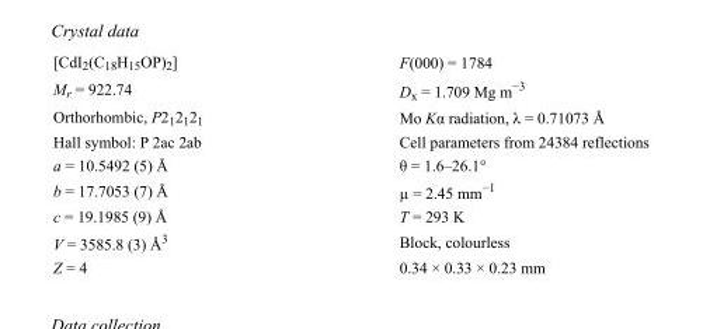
<table><tbody><tr><td>[CdI<sub>2</sub>(C<sub>18</sub>H<sub>15</sub>OP)<sub>2</sub>]</td><td>F(000) = 1784</td></tr><tr><td>M<sub>r</sub> = 922.74</td><td>D<sub>x</sub> = 1.709 Mg m<sup>−3</sup></td></tr><tr><td>Orthorhombic, P2<sub>1</sub>2<sub>1</sub>2<sub>1</sub></td><td>Mo Kα radiation, λ = 0.71073 Å</td></tr><tr><td>Hall symbol: P 2ac 2ab</td><td>Cell parameters from 24384 reflections</td></tr><tr><td>a = 10.5492 (5) Å</td><td>θ = 1.6–26.1°</td></tr><tr><td>b = 17.7053 (7) Å</td><td>µ = 2.45 mm<sup>−1</sup></td></tr><tr><td>c = 19.1985 (9) Å</td><td>T = 293 K</td></tr><tr><td>V = 3585.8 (3) Å<sup>3</sup></td><td>Block, colourless</td></tr><tr><td>Z = 4</td><td>0.34 × 0.33 × 0.23 mm</td></tr></tbody></table>